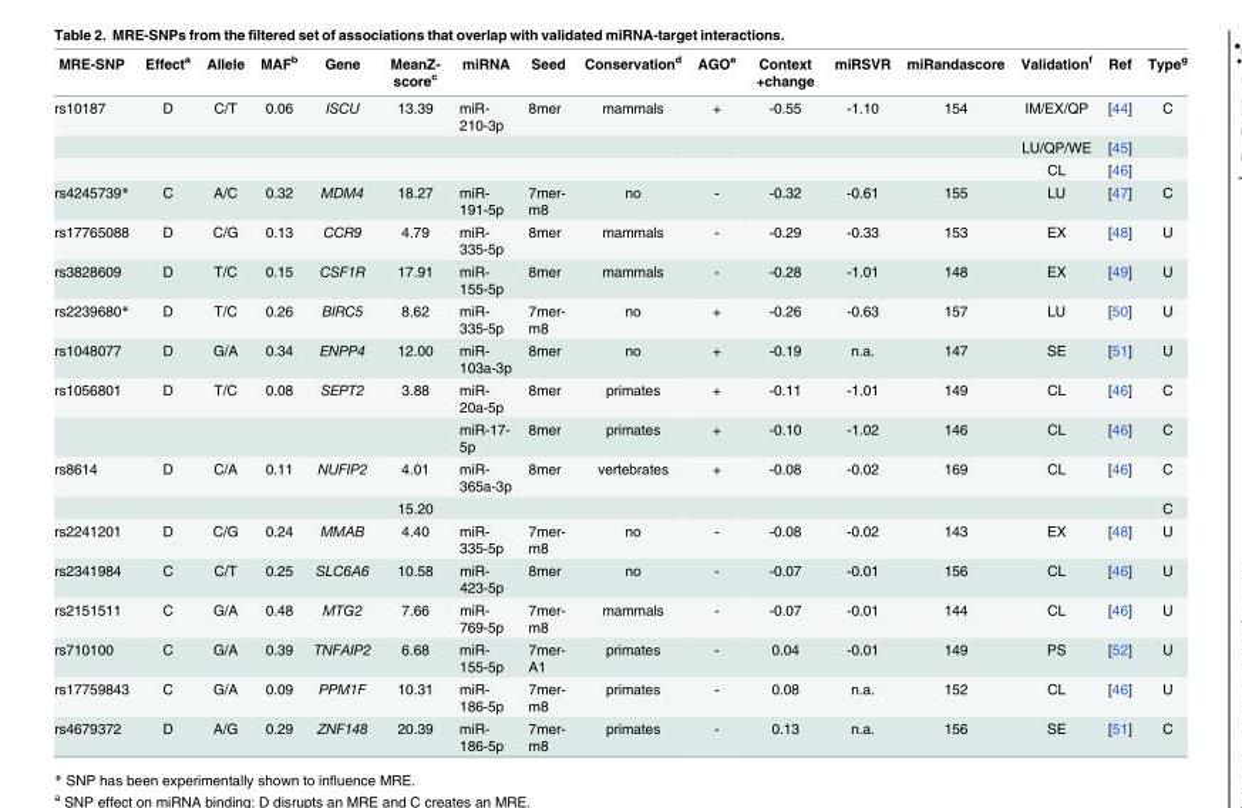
<table><thead><tr><td>MRE-SNP</td><td>Effect<sup>a</sup></td><td>Allele</td><td>MAF<sup>b</sup></td><td>Gene</td><td>MeanZ- score<sup>c</sup></td><td>miRNA</td><td>Seed</td><td>Conservation<sup>d</sup></td><td>AGO<sup>e</sup></td><td>Context +change</td><td>miRSVR</td><td>miRandascore</td><td>Validation<sup>f</sup></td><td>Ref</td><td>Type<sup>g</sup></td></tr></thead><tbody><tr><td rowspan="3">rs10187</td><td>D</td><td>C/T</td><td>0.06</td><td>ISCU</td><td>13.39</td><td>miR- 210-3p</td><td>8mer</td><td>mammals</td><td>+</td><td>-0.55</td><td>-1.10</td><td>154</td><td>IM/EX/QP</td><td>[44]</td><td>C</td></tr><tr><td></td><td></td><td></td><td></td><td></td><td></td><td></td><td></td><td></td><td></td><td></td><td></td><td>LU/QP/WE</td><td>[45]</td><td></td></tr><tr><td></td><td></td><td></td><td></td><td></td><td></td><td></td><td></td><td></td><td></td><td></td><td></td><td>CL</td><td>[46]</td><td></td></tr><tr><td>rs4245739*</td><td>C</td><td>A/C</td><td>0.32</td><td>MDM4</td><td>18.27</td><td>miR- 191-5p</td><td>7mer- m8</td><td>no</td><td>-</td><td>-0.32</td><td>-0.61</td><td>155</td><td>LU</td><td>[47]</td><td>C</td></tr><tr><td>rs17765088</td><td>D</td><td>C/G</td><td>0.13</td><td>CCR9</td><td>4.79</td><td>miR- 335-5p</td><td>8mer</td><td>mammals</td><td>-</td><td>-0.29</td><td>-0.33</td><td>153</td><td>EX</td><td>[48]</td><td>U</td></tr><tr><td>rs3828609</td><td>D</td><td>T/C</td><td>0.15</td><td>CSF1R</td><td>17.91</td><td>miR- 155-5p</td><td>8mer</td><td>mammals</td><td>-</td><td>-0.28</td><td>-1.01</td><td>148</td><td>EX</td><td>[49]</td><td>U</td></tr><tr><td>rs2239680*</td><td>D</td><td>T/C</td><td>0.26</td><td>BIRC5</td><td>8.62</td><td>miR- 335-5p</td><td>7mer- m8</td><td>no</td><td>+</td><td>-0.26</td><td>-0.63</td><td>157</td><td>LU</td><td>[50]</td><td>U</td></tr><tr><td>rs1048077</td><td>D</td><td>G/A</td><td>0.34</td><td>ENPP4</td><td>12.00</td><td>miR- 103a-3p</td><td>8mer</td><td>no</td><td>+</td><td>-0.19</td><td>n.a.</td><td>147</td><td>SE</td><td>[51]</td><td>U</td></tr><tr><td rowspan="2">rs1056801</td><td>D</td><td>T/C</td><td>0.08</td><td>SEPT2</td><td>3.88</td><td>miR- 20a-5p</td><td>8mer</td><td>primates</td><td>+</td><td>-0.11</td><td>-1.01</td><td>149</td><td>CL</td><td>[46]</td><td>C</td></tr><tr><td></td><td></td><td></td><td></td><td></td><td>miR-17- 5p</td><td>8mer</td><td>primates</td><td>+</td><td>-0.10</td><td>-1.02</td><td>146</td><td>CL</td><td>[46]</td><td>C</td></tr><tr><td rowspan="2">rs8614</td><td>D</td><td>C/A</td><td>0.11</td><td>NUFIP2</td><td>4.01</td><td>miR- 365a-3p</td><td>8mer</td><td>vertebrates</td><td>+</td><td>-0.08</td><td>-0.02</td><td>169</td><td>CL</td><td>[46]</td><td>C</td></tr><tr><td></td><td></td><td></td><td></td><td>15.20</td><td></td><td></td><td></td><td></td><td></td><td></td><td></td><td></td><td></td><td>C</td></tr><tr><td>rs2241201</td><td>D</td><td>C/G</td><td>0.24</td><td>MMAB</td><td>4.40</td><td>miR- 335-5p</td><td>7mer- m8</td><td>no</td><td>-</td><td>-0.08</td><td>-0.02</td><td>143</td><td>EX</td><td>[48]</td><td>U</td></tr><tr><td>rs2341984</td><td>C</td><td>C/T</td><td>0.25</td><td>SLC6A6</td><td>10.58</td><td>miR- 423-5p</td><td>8mer</td><td>no</td><td>-</td><td>-0.07</td><td>-0.01</td><td>156</td><td>CL</td><td>[46]</td><td>U</td></tr><tr><td>rs2151511</td><td>C</td><td>G/A</td><td>0.48</td><td>MTG2</td><td>7.66</td><td>miR- 769-5p</td><td>7mer- m8</td><td>mammals</td><td>-</td><td>-0.07</td><td>-0.01</td><td>144</td><td>CL</td><td>[46]</td><td>U</td></tr><tr><td>rs710100</td><td>C</td><td>G/A</td><td>0.39</td><td>TNFAIP2</td><td>6.68</td><td>miR- 155-5p</td><td>7mer- A1</td><td>primates</td><td>-</td><td>0.04</td><td>-0.01</td><td>149</td><td>PS</td><td>[52]</td><td>U</td></tr><tr><td>rs17759843</td><td>C</td><td>G/A</td><td>0.09</td><td>PPM1F</td><td>10.31</td><td>miR- 186-5p</td><td>7mer- m8</td><td>primates</td><td>-</td><td>0.08</td><td>n.a.</td><td>152</td><td>CL</td><td>[46]</td><td>U</td></tr><tr><td>rs4679372</td><td>D</td><td>A/G</td><td>0.29</td><td>ZNF148</td><td>20.39</td><td>miR- 186-5p</td><td>7mer- m8</td><td>primates</td><td>-</td><td>0.13</td><td>n.a.</td><td>156</td><td>SE</td><td>[51]</td><td>C</td></tr></tbody></table>